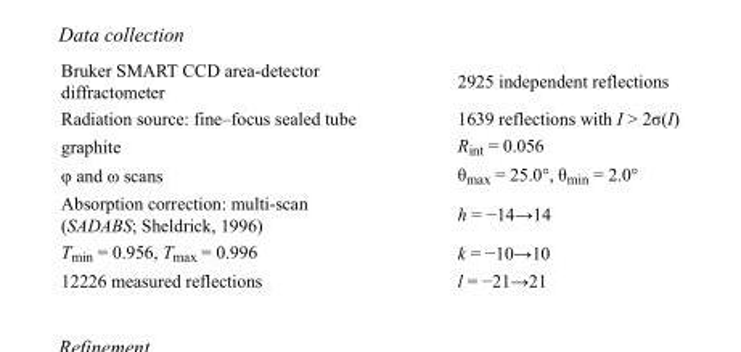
<table><tbody><tr><td>Bruker SMART CCD area-detector diffractometer</td><td>2925 independent reflections</td></tr><tr><td>Radiation source: fine–focus sealed tube</td><td>1639 reflections with I &gt; 2σ(I)</td></tr><tr><td>graphite</td><td>R<sub>int</sub> = 0.056</td></tr><tr><td>φ and ω scans</td><td>θ<sub>max</sub> = 25.0°, θ<sub>min</sub> = 2.0°</td></tr><tr><td>Absorption correction: multi-scan (SADABS; Sheldrick, 1996)</td><td>h = −14→14</td></tr><tr><td>T<sub>min</sub> = 0.956, T<sub>max</sub> = 0.996</td><td>k = −10→10</td></tr><tr><td>12226 measured reflections</td><td>l = −21→21</td></tr></tbody></table>